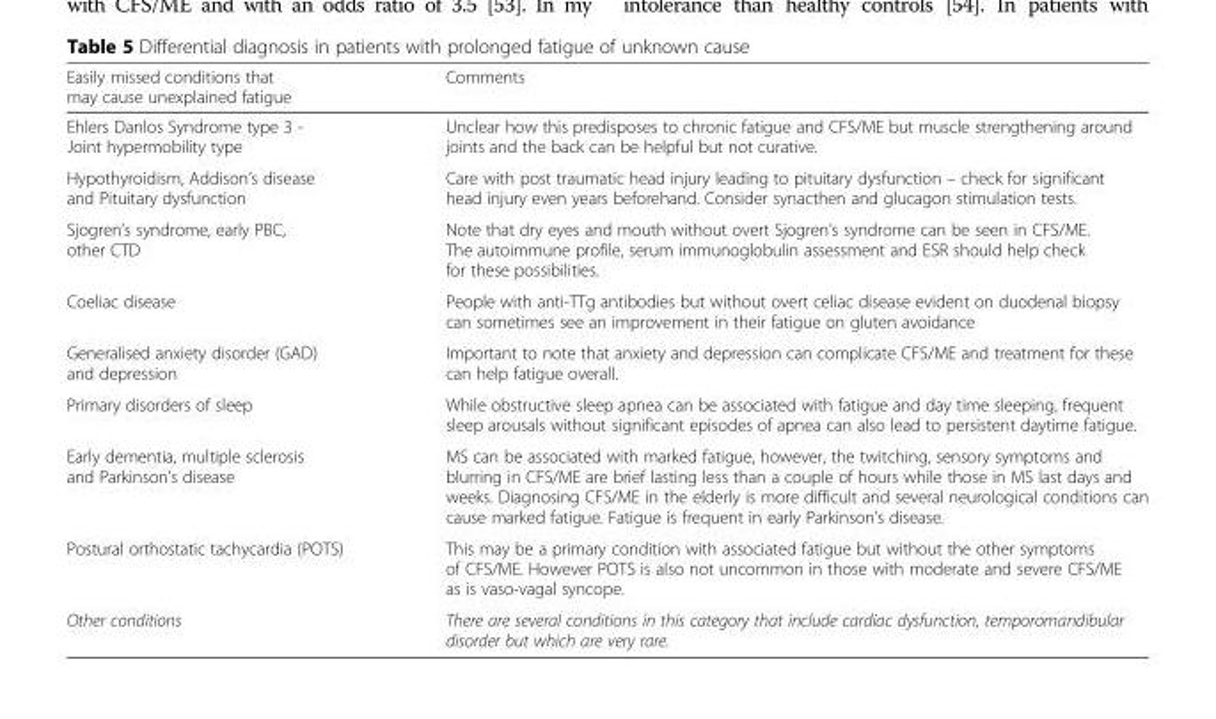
<table><thead><tr><td>Easily missed conditions that may cause unexplained fatigue</td><td>Comments</td></tr></thead><tbody><tr><td>Ehlers Danlos Syndrome type 3 - Joint hypermobility type</td><td>Unclear how this predisposes to chronic fatigue and CFS/ME but muscle strengthening around joints and the back can be helpful but not curative.</td></tr><tr><td>Hypothyroidism, Addison’s disease and Pituitary dysfunction</td><td>Care with post traumatic head injury leading to pituitary dysfunction – check for significant head injury even years beforehand. Consider synacthen and glucagon stimulation tests.</td></tr><tr><td>Sjogren’s syndrome, early PBC, other CTD</td><td>Note that dry eyes and mouth without overt Sjogren’s syndrome can be seen in CFS/ME. The autoimmune profile, serum immunoglobulin assessment and ESR should help check for these possibilities.</td></tr><tr><td>Coeliac disease</td><td>People with anti-TTg antibodies but without overt celiac disease evident on duodenal biopsy can sometimes see an improvement in their fatigue on gluten avoidance</td></tr><tr><td>Generalised anxiety disorder (GAD) and depression</td><td>Important to note that anxiety and depression can complicate CFS/ME and treatment for these can help fatigue overall.</td></tr><tr><td>Primary disorders of sleep</td><td>While obstructive sleep apnea can be associated with fatigue and day time sleeping, frequent sleep arousals without significant episodes of apnea can also lead to persistent daytime fatigue.</td></tr><tr><td>Early dementia, multiple sclerosis and Parkinson’s disease</td><td>MS can be associated with marked fatigue, however, the twitching, sensory symptoms and blurring in CFS/ME are brief lasting less than a couple of hours while those in MS last days and weeks. Diagnosing CFS/ME in the elderly is more difficult and several neurological conditions can cause marked fatigue. Fatigue is frequent in early Parkinson’s disease.</td></tr><tr><td>Postural orthostatic tachycardia (POTS)</td><td>This may be a primary condition with associated fatigue but without the other symptoms of CFS/ME. However POTS is also not uncommon in those with moderate and severe CFS/ME as is vaso-vagal syncope.</td></tr><tr><td>Other conditions</td><td>There are several conditions in this category that include cardiac dysfunction, temporomandibular disorder but which are very rare.</td></tr></tbody></table>